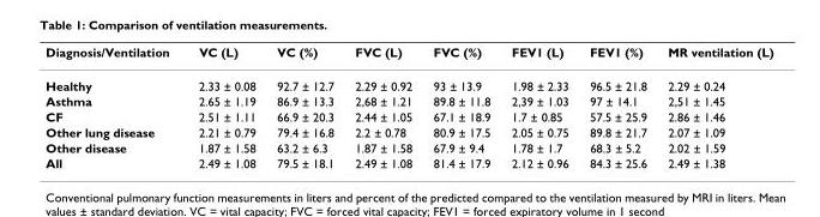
<table><thead><tr><td>Diagnosis/Ventilation</td><td>VC (L)</td><td>VC (%)</td><td>FVC (L)</td><td>FVC (%)</td><td>FEV1 (L)</td><td>FEV1 (%)</td><td>MR ventilation (L)</td></tr></thead><tbody><tr><td>Healthy</td><td>2.33 ± 0.08</td><td>92.7 ± 12.7</td><td>2.29 ± 0.92</td><td>93 ± 13.9</td><td>1.98 ± 2.33</td><td>96.5 ± 21.8</td><td>2.29 ± 0.24</td></tr><tr><td>Asthma</td><td>2.65 ± 1.19</td><td>86.9 ± 13.3</td><td>2,68 ± 1.21</td><td>89.8 ± 11.8</td><td>2,39 ± 1.03</td><td>97 ± 14.1</td><td>2,51 ± 1.45</td></tr><tr><td>CF</td><td>2.51 ± 1.11</td><td>66.9 ± 20.3</td><td>2.44 ± 1.05</td><td>67.1 ± 18.9</td><td>1.7 ± 0.85</td><td>57.5 ± 25.9</td><td>2.86 ± 1.46</td></tr><tr><td>Other lung disease</td><td>2.21 ± 0.79</td><td>79.4 ± 16.8</td><td>2.2 ± 0.78</td><td>80.9 ± 17.5</td><td>2.05 ± 0.75</td><td>89.8 ± 21.7</td><td>2.07 ± 1.09</td></tr><tr><td>Other disease</td><td>1.87 ± 1.58</td><td>63.2 ± 6.3</td><td>1.87 ± 1.58</td><td>67.9 ± 9.4</td><td>1.78 ± 1.7</td><td>68.3 ± 5.2</td><td>2.02 ± 1.59</td></tr><tr><td>All</td><td>2.49 ± 1.08</td><td>79.5 ± 18.1</td><td>2.49 ± 1.08</td><td>81.4 ± 17.9</td><td>2.12 ± 0.96</td><td>84.3 ± 25.6</td><td>2.49 ± 1.38</td></tr></tbody></table>